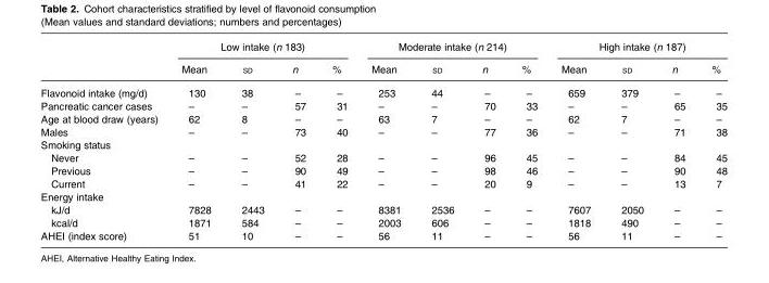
<table><thead><tr><td rowspan="2"></td><td colspan="4">Low intake (n 183)</td><td colspan="4">Moderate intake (n 214)</td><td colspan="4">High intake (n 187)</td></tr><tr><td>Mean</td><td>SD</td><td>n</td><td>%</td><td>Mean</td><td>SD</td><td>n</td><td>%</td><td>Mean</td><td>SD</td><td>n</td><td>%</td></tr></thead><tbody><tr><td>Flavonoid intake (mg/d)</td><td>130</td><td>38</td><td>–</td><td>–</td><td>253</td><td>44</td><td>–</td><td>–</td><td>659</td><td>379</td><td>–</td><td>–</td></tr><tr><td>Pancreatic cancer cases</td><td>–</td><td>–</td><td>57</td><td>31</td><td>–</td><td>–</td><td>70</td><td>33</td><td>–</td><td>–</td><td>65</td><td>35</td></tr><tr><td>Age at blood draw (years)</td><td>62</td><td>8</td><td>–</td><td>–</td><td>63</td><td>7</td><td>–</td><td>–</td><td>62</td><td>7</td><td>–</td><td>–</td></tr><tr><td>Males</td><td>–</td><td>–</td><td>73</td><td>40</td><td>–</td><td>–</td><td>77</td><td>36</td><td>–</td><td>–</td><td>71</td><td>38</td></tr><tr><td colspan="13">Smoking status</td></tr><tr><td>Never</td><td>–</td><td>–</td><td>52</td><td>28</td><td>–</td><td>–</td><td>96</td><td>45</td><td>–</td><td>–</td><td>84</td><td>45</td></tr><tr><td>Previous</td><td>–</td><td>–</td><td>90</td><td>49</td><td>–</td><td>–</td><td>98</td><td>46</td><td>–</td><td>–</td><td>90</td><td>48</td></tr><tr><td>Current</td><td>–</td><td>–</td><td>41</td><td>22</td><td>–</td><td>–</td><td>20</td><td>9</td><td>–</td><td>–</td><td>13</td><td>7</td></tr><tr><td colspan="13">Energy intake</td></tr><tr><td>kJ/d</td><td>7828</td><td>2443</td><td>–</td><td>–</td><td>8381</td><td>2536</td><td>–</td><td>–</td><td>7607</td><td>2050</td><td>–</td><td>–</td></tr><tr><td>kcal/d</td><td>1871</td><td>584</td><td>–</td><td>–</td><td>2003</td><td>606</td><td>–</td><td>–</td><td>1818</td><td>490</td><td>–</td><td>–</td></tr><tr><td>AHEI (index score)</td><td>51</td><td>10</td><td>–</td><td>–</td><td>56</td><td>11</td><td>–</td><td>–</td><td>56</td><td>11</td><td>–</td><td>–</td></tr></tbody></table>